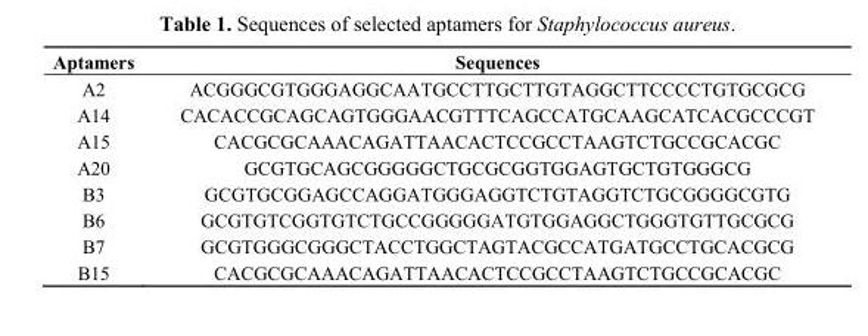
<table><thead><tr><td>Aptamers</td><td>Sequences</td></tr></thead><tbody><tr><td>A2</td><td>ACGGGCGTGGGAGGCAATGCCTTGCTTGTAGGCTTCCCCTGTGCGCG</td></tr><tr><td>A14</td><td>CACACCGCAGCAGTGGGAACGTTTCAGCCATGCAAGCATCACGCCCGT</td></tr><tr><td>A15</td><td>CACGCGCAAACAGATTAACACTCCGCCTAAGTCTGCCGCACGC</td></tr><tr><td>A20</td><td>GCGTGCAGCGGGGGCTGCGCGGTGGAGTGCTGTGGGCG</td></tr><tr><td>B3</td><td>GCGTGCGGAGCCAGGATGGGAGGTCTGTAGGTCTGCGGGGCGTG</td></tr><tr><td>B6</td><td>GCGTGTCGGTGTCTGCCGGGGGATGTGGAGGCTGGGTGTTGCGCG</td></tr><tr><td>B7</td><td>GCGTGGGCGGGCTACCTGGCTAGTACGCCATGATGCCTGCACGCG</td></tr><tr><td>B15</td><td>CACGCGCAAACAGATTAACACTCCGCCTAAGTCTGCCGCACGC</td></tr></tbody></table>